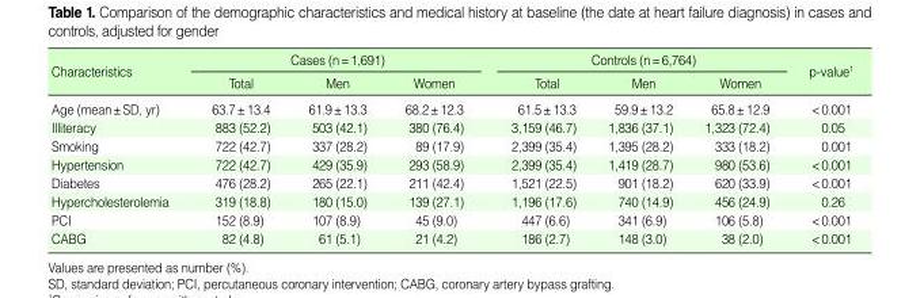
<table><thead><tr><td rowspan="2">Characteristics</td><td colspan="3">Cases (n=1,691)</td><td colspan="3">Controls (n=6,764)</td><td rowspan="2">p-value<sup>1</sup></td></tr><tr><td>Total</td><td>Men</td><td>Women</td><td>Total</td><td>Men</td><td>Women</td></tr></thead><tbody><tr><td>Age (mean±SD, yr)</td><td>63.7±13.4</td><td>61.9±13.3</td><td>68.2±12.3</td><td>61.5±13.3</td><td>59.9±13.2</td><td>65.8±12.9</td><td>&lt;0.001</td></tr><tr><td>Illiteracy</td><td>883 (52.2)</td><td>503 (42.1)</td><td>380 (76.4)</td><td>3,159 (46.7)</td><td>1,836 (37.1)</td><td>1,323 (72.4)</td><td>0.05</td></tr><tr><td>Smoking</td><td>722 (42.7)</td><td>337 (28.2)</td><td>89 (17.9)</td><td>2,399 (35.4)</td><td>1,395 (28.2)</td><td>333 (18.2)</td><td>0.001</td></tr><tr><td>Hypertension</td><td>722 (42.7)</td><td>429 (35.9)</td><td>293 (58.9)</td><td>2,399 (35.4)</td><td>1,419 (28.7)</td><td>980 (53.6)</td><td>&lt;0.001</td></tr><tr><td>Diabetes</td><td>476 (28.2)</td><td>265 (22.1)</td><td>211 (42.4)</td><td>1,521 (22.5)</td><td>901 (18.2)</td><td>620 (33.9)</td><td>&lt;0.001</td></tr><tr><td>Hypercholesterolemia</td><td>319 (18.8)</td><td>180 (15.0)</td><td>139 (27.1)</td><td>1,196 (17.6)</td><td>740 (14.9)</td><td>456 (24.9)</td><td>0.26</td></tr><tr><td>PCI</td><td>152 (8.9)</td><td>107 (8.9)</td><td>45 (9.0)</td><td>447 (6.6)</td><td>341 (6.9)</td><td>106 (5.8)</td><td>&lt;0.001</td></tr><tr><td>CABG</td><td>82 (4.8)</td><td>61 (5.1)</td><td>21 (4.2)</td><td>186 (2.7)</td><td>148 (3.0)</td><td>38 (2.0)</td><td>&lt;0.001</td></tr></tbody></table>